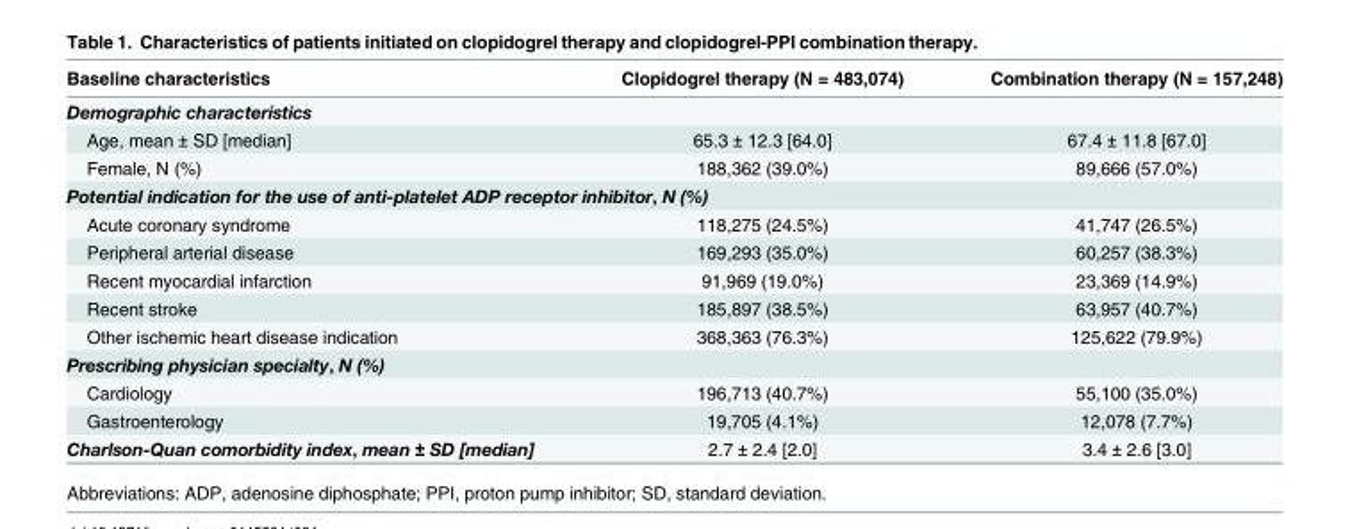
<table><thead><tr><td>Baseline characteristics</td><td>Clopidogrel therapy (N = 483,074)</td><td>Combination therapy (N = 157,248)</td></tr></thead><tbody><tr><td colspan="3">Demographic characteristics</td></tr><tr><td>Age, mean ± SD [median]</td><td>65.3 ± 12.3 [64.0]</td><td>67.4 ± 11.8 [67.0]</td></tr><tr><td>Female, N (%)</td><td>188,362 (39.0%)</td><td>89,666 (57.0%)</td></tr><tr><td colspan="3">Potential indication for the use of anti-platelet ADP receptor inhibitor, N (%)</td></tr><tr><td>Acute coronary syndrome</td><td>118,275 (24.5%)</td><td>41,747 (26.5%)</td></tr><tr><td>Peripheral arterial disease</td><td>169,293 (35.0%)</td><td>60,257 (38.3%)</td></tr><tr><td>Recent myocardial infarction</td><td>91,969 (19.0%)</td><td>23,369 (14.9%)</td></tr><tr><td>Recent stroke</td><td>185,897 (38.5%)</td><td>63,957 (40.7%)</td></tr><tr><td>Other ischemic heart disease indication</td><td>368,363 (76.3%)</td><td>125,622 (79.9%)</td></tr><tr><td colspan="3">Prescribing physician specialty, N (%)</td></tr><tr><td>Cardiology</td><td>196,713 (40.7%)</td><td>55,100 (35.0%)</td></tr><tr><td>Gastroenterology</td><td>19,705 (4.1%)</td><td>12,078 (7.7%)</td></tr><tr><td>Charlson-Quan comorbidity index, mean ± SD [median]</td><td>2.7 ± 2.4 [2.0]</td><td>3.4 ± 2.6 [3.0]</td></tr></tbody></table>